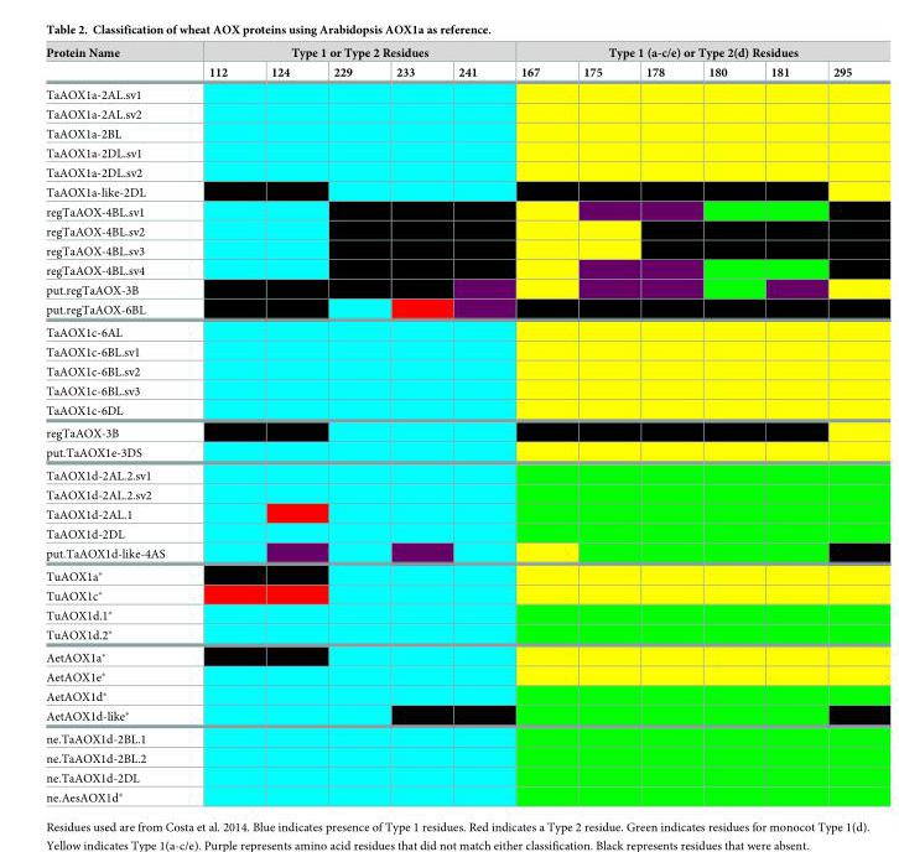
<table><thead><tr><td rowspan="2">Protein Name</td><td colspan="5">Type 1 or Type 2 Residues</td><td colspan="6">Type 1 (a-c/e) or Type 2(d) Residues</td></tr><tr><td>112</td><td>124</td><td>229</td><td>233</td><td>241</td><td>167</td><td>175</td><td>178</td><td>180</td><td>181</td><td>295</td></tr></thead><tbody><tr><td colspan="12">TaAOX1a-2AL.sv1</td></tr><tr><td colspan="12">TaAOX1a-2AL.sv2</td></tr><tr><td colspan="12">TaAOX1a-2BL</td></tr><tr><td colspan="12">TaAOX1a-2DL.sv1</td></tr><tr><td colspan="12">TaAOX1a-2DL.sv2</td></tr><tr><td colspan="12">TaAOX1a-like-2DL</td></tr><tr><td colspan="12">regTaAOX-4BL.sv1</td></tr><tr><td colspan="12">regTaAOX-4BL.sv2</td></tr><tr><td colspan="12">regTaAOX-4BL.sv3</td></tr><tr><td colspan="12">regTaAOX-4BL.sv4</td></tr><tr><td colspan="12">put.regTaAOX-3B</td></tr><tr><td colspan="12">put.regTaAOX-6BL</td></tr><tr><td colspan="12">TaAOX1c-6AL</td></tr><tr><td colspan="12">TaAOX1c-6BL.sv1</td></tr><tr><td colspan="12">TaAOX1c-6BL.sv2</td></tr><tr><td colspan="12">TaAOX1c-6BL.sv3</td></tr><tr><td colspan="12">TaAOX1c-6DL</td></tr><tr><td colspan="12">regTaAOX-3B</td></tr><tr><td colspan="12">put.TaAOX1e-3DS</td></tr><tr><td colspan="12">TaAOX1d-2AL.2.sv1</td></tr><tr><td colspan="12">TaAOX1d-2AL.2.sv2</td></tr><tr><td colspan="12">TaAOX1d-2AL.1</td></tr><tr><td colspan="12">TaAOX1d-2DL</td></tr><tr><td colspan="12">put.TaAOX1d-like-4AS</td></tr><tr><td colspan="12">TuAOX1a*</td></tr><tr><td colspan="12">TuAOX1c*</td></tr><tr><td colspan="12">TuAOX1d.1*</td></tr><tr><td colspan="12">TuAOX1d.2*</td></tr><tr><td colspan="12">AetAOX1a*</td></tr><tr><td colspan="12">AetAOX1e*</td></tr><tr><td colspan="12">AetAOX1d*</td></tr><tr><td colspan="12">AetAOX1d-like*</td></tr><tr><td colspan="12">ne.TaAOX1d-2BL.1</td></tr><tr><td colspan="12">ne.TaAOX1d-2BL.2</td></tr><tr><td colspan="12">ne.TaAOX1d-2DL</td></tr><tr><td>ne.AesAOX1d*</td><td></td><td></td><td></td><td></td><td></td><td></td><td></td><td></td><td></td><td></td><td></td></tr></tbody></table>